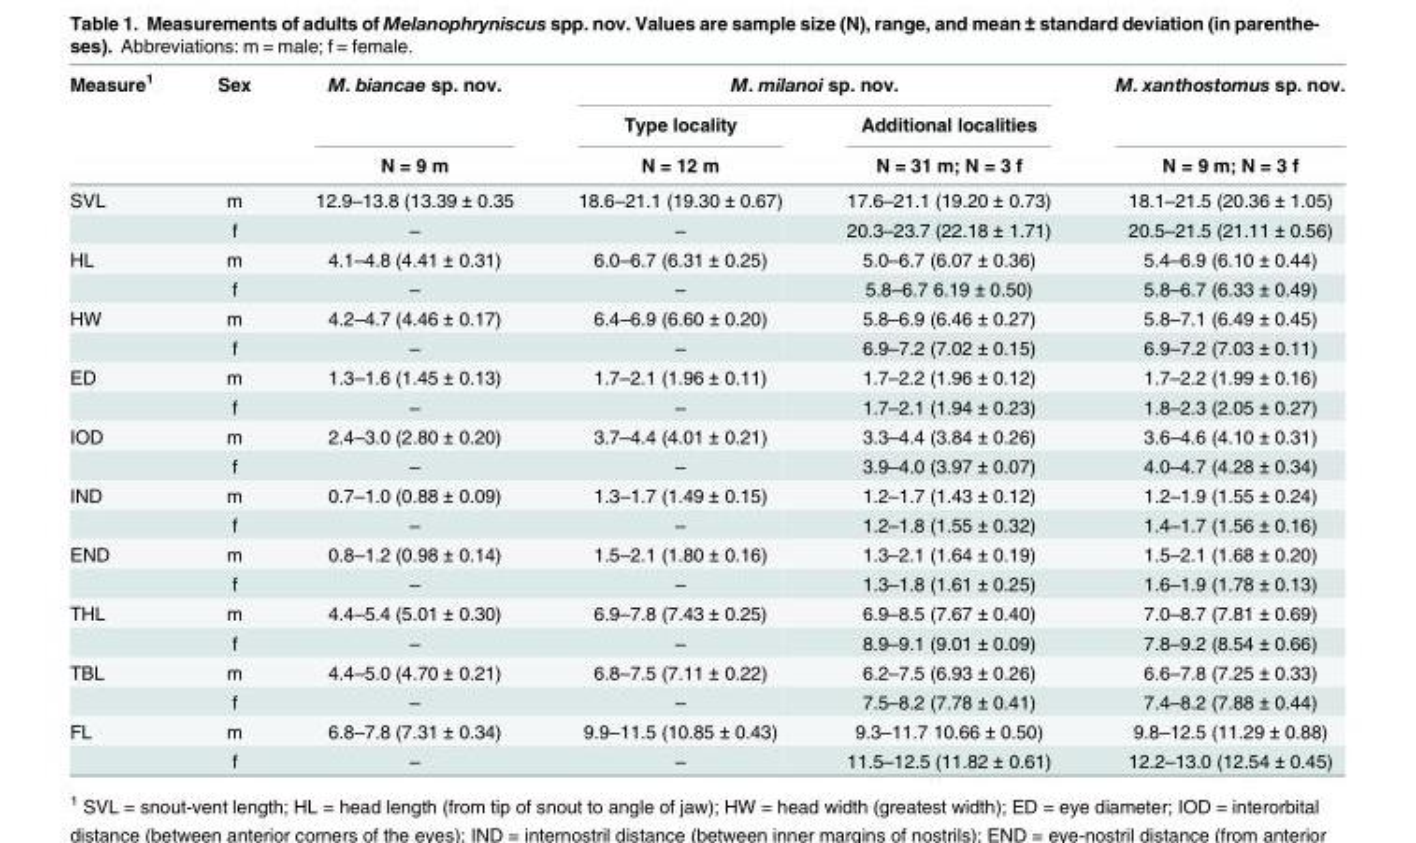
<table><thead><tr><td rowspan="3">Measure<sup>1</sup></td><td rowspan="3">Sex</td><td rowspan="3">M. biancae sp. nov. N = 9 m</td><td colspan="2">M. milanoi sp. nov.</td><td rowspan="3">M. xanthostomus sp. nov. N = 9 m; N = 3 f</td></tr><tr><td rowspan="2">Type locality N = 12 m</td><td rowspan="2">Additional localities N = 31 m; N = 3 f</td></tr><tr></tr></thead><tbody><tr><td rowspan="2">SVL</td><td>m</td><td>12.9–13.8 (13.39 ± 0.35</td><td>18.6–21.1 (19.30 ± 0.67)</td><td>17.6–21.1 (19.20 ± 0.73)</td><td>18.1–21.5 (20.36 ± 1.05)</td></tr><tr><td>f</td><td>–</td><td>–</td><td>20.3–23.7 (22.18 ± 1.71)</td><td>20.5–21.5 (21.11 ± 0.56)</td></tr><tr><td rowspan="2">HL</td><td>m</td><td>4.1–4.8 (4.41 ± 0.31)</td><td>6.0–6.7 (6.31 ± 0.25)</td><td>5.0–6.7 (6.07 ± 0.36)</td><td>5.4–6.9 (6.10 ± 0.44)</td></tr><tr><td>f</td><td>–</td><td>–</td><td>5.8–6.7 6.19 ± 0.50)</td><td>5.8–6.7 (6.33 ± 0.49)</td></tr><tr><td rowspan="2">HW</td><td>m</td><td>4.2–4.7 (4.46 ± 0.17)</td><td>6.4–6.9 (6.60 ± 0.20)</td><td>5.8–6.9 (6.46 ± 0.27)</td><td>5.8–7.1 (6.49 ± 0.45)</td></tr><tr><td>f</td><td>–</td><td>–</td><td>6.9–7.2 (7.02 ± 0.15)</td><td>6.9–7.2 (7.03 ± 0.11)</td></tr><tr><td rowspan="2">ED</td><td>m</td><td>1.3–1.6 (1.45 ± 0.13)</td><td>1.7–2.1 (1.96 ± 0.11)</td><td>1.7–2.2 (1.96 ± 0.12)</td><td>1.7–2.2 (1.99 ± 0.16)</td></tr><tr><td>f</td><td>–</td><td>–</td><td>1.7–2.1 (1.94 ± 0.23)</td><td>1.8–2.3 (2.05 ± 0.27)</td></tr><tr><td rowspan="2">IOD</td><td>m</td><td>2.4–3.0 (2.80 ± 0.20)</td><td>3.7–4.4 (4.01 ± 0.21)</td><td>3.3–4.4 (3.84 ± 0.26)</td><td>3.6–4.6 (4.10 ± 0.31)</td></tr><tr><td>f</td><td>–</td><td>–</td><td>3.9–4.0 (3.97 ± 0.07)</td><td>4.0–4.7 (4.28 ± 0.34)</td></tr><tr><td rowspan="2">IND</td><td>m</td><td>0.7–1.0 (0.88 ± 0.09)</td><td>1.3–1.7 (1.49 ± 0.15)</td><td>1.2–1.7 (1.43 ± 0.12)</td><td>1.2–1.9 (1.55 ± 0.24)</td></tr><tr><td>f</td><td>–</td><td>–</td><td>1.2–1.8 (1.55 ± 0.32)</td><td>1.4–1.7 (1.56 ± 0.16)</td></tr><tr><td rowspan="2">END</td><td>m</td><td>0.8–1.2 (0.98 ± 0.14)</td><td>1.5–2.1 (1.80 ± 0.16)</td><td>1.3–2.1 (1.64 ± 0.19)</td><td>1.5–2.1 (1.68 ± 0.20)</td></tr><tr><td>f</td><td>–</td><td>–</td><td>1.3–1.8 (1.61 ± 0.25)</td><td>1.6–1.9 (1.78 ± 0.13)</td></tr><tr><td rowspan="2">THL</td><td>m</td><td>4.4–5.4 (5.01 ± 0.30)</td><td>6.9–7.8 (7.43 ± 0.25)</td><td>6.9–8.5 (7.67 ± 0.40)</td><td>7.0–8.7 (7.81 ± 0.69)</td></tr><tr><td>f</td><td>–</td><td>–</td><td>8.9–9.1 (9.01 ± 0.09)</td><td>7.8–9.2 (8.54 ± 0.66)</td></tr><tr><td rowspan="2">TBL</td><td>m</td><td>4.4–5.0 (4.70 ± 0.21)</td><td>6.8–7.5 (7.11 ± 0.22)</td><td>6.2–7.5 (6.93 ± 0.26)</td><td>6.6–7.8 (7.25 ± 0.33)</td></tr><tr><td>f</td><td>–</td><td>–</td><td>7.5–8.2 (7.78 ± 0.41)</td><td>7.4–8.2 (7.88 ± 0.44)</td></tr><tr><td rowspan="2">FL</td><td>m</td><td>6.8–7.8 (7.31 ± 0.34)</td><td>9.9–11.5 (10.85 ± 0.43)</td><td>9.3–11.7 10.66 ± 0.50)</td><td>9.8–12.5 (11.29 ± 0.88)</td></tr><tr><td>f</td><td>–</td><td>–</td><td>11.5–12.5 (11.82 ± 0.61)</td><td>12.2–13.0 (12.54 ± 0.45)</td></tr></tbody></table>